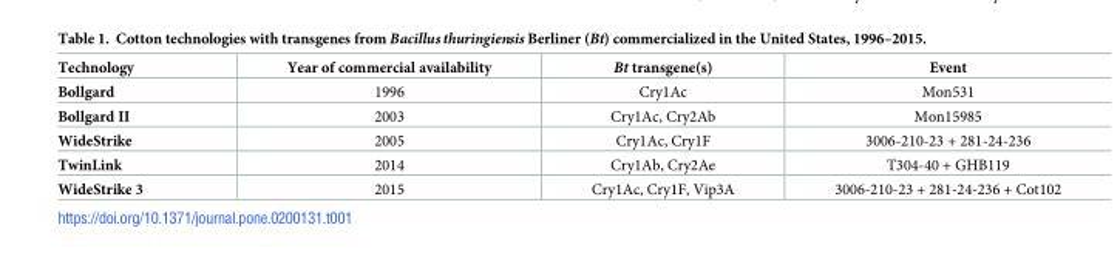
<table><thead><tr><td>Technology</td><td>Year of commercial availability</td><td>Bt transgene(s)</td><td>Event</td></tr></thead><tbody><tr><td>Bollgard</td><td>1996</td><td>Cry1Ac</td><td>Mon531</td></tr><tr><td>Bollgard II</td><td>2003</td><td>Cry1Ac, Cry2Ab</td><td>Mon15985</td></tr><tr><td>WideStrike</td><td>2005</td><td>Cry1Ac, Cry1F</td><td>3006-210-23 + 281-24-236</td></tr><tr><td>TwinLink</td><td>2014</td><td>Cry1Ab, Cry2Ae</td><td>T304-40 + GHB119</td></tr><tr><td>WideStrike 3</td><td>2015</td><td>Cry1Ac, Cry1F, Vip3A</td><td>3006-210-23 + 281-24-236 + Cot102</td></tr></tbody></table>